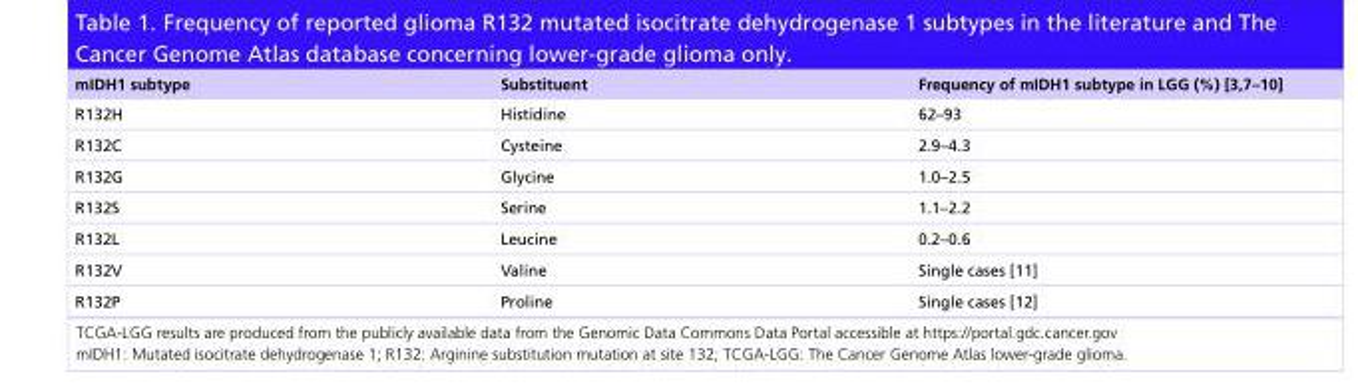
<table><thead><tr><td>mIDH1 subtype</td><td>Substituent</td><td>Frequency of mIDH1 subtype in LGG (%) [3,7–10]</td></tr></thead><tbody><tr><td>R132H</td><td>Histidine</td><td>62–93</td></tr><tr><td>R132C</td><td>Cysteine</td><td>2.9–4.3</td></tr><tr><td>R132G</td><td>Glycine</td><td>1.0–2.5</td></tr><tr><td>R132S</td><td>Serine</td><td>1.1–2.2</td></tr><tr><td>R132L</td><td>Leucine</td><td>0.2–0.6</td></tr><tr><td>R132V</td><td>Valine</td><td>Single cases [11]</td></tr><tr><td>R132P</td><td>Proline</td><td>Single cases [12]</td></tr></tbody></table>